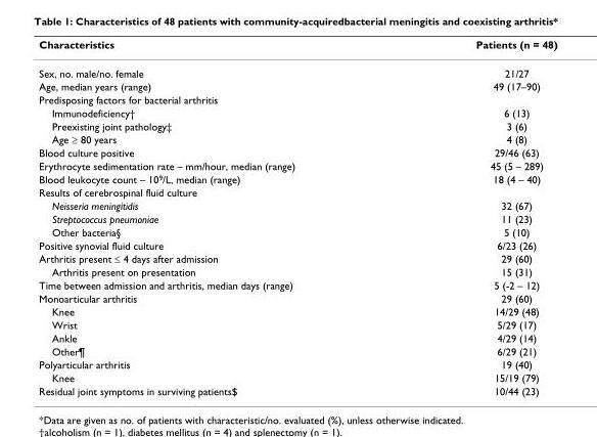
<table><thead><tr><td>Characteristics</td><td>Patients (n = 48)</td></tr></thead><tbody><tr><td>Sex, no. male/no. female</td><td>21/27</td></tr><tr><td>Age, median years (range)</td><td>49 (17–90)</td></tr><tr><td colspan="2">Predisposing factors for bacterial arthritis</td></tr><tr><td>Immunodeficiency†</td><td>6 (13)</td></tr><tr><td>Preexisting joint pathology‡</td><td>3 (6)</td></tr><tr><td>Age ≥ 80 years</td><td>4 (8)</td></tr><tr><td>Blood culture positive</td><td>29/46 (63)</td></tr><tr><td>Erythrocyte sedimentation rate – mm/hour, median (range)</td><td>45 (5 – 289)</td></tr><tr><td>Blood leukocyte count – 10<sup>9</sup>/L, median (range)</td><td>18 (4 – 40)</td></tr><tr><td colspan="2">Results of cerebrospinal fluid culture</td></tr><tr><td>Neisseria meningitidis</td><td>32 (67)</td></tr><tr><td>Streptococcus pneumoniae</td><td>11 (23)</td></tr><tr><td>Other bacteria§</td><td>5 (10)</td></tr><tr><td>Positive synovial fluid culture</td><td>6/23 (26)</td></tr><tr><td>Arthritis present ≤ 4 days after admission</td><td>29 (60)</td></tr><tr><td>Arthritis present on presentation</td><td>15 (31)</td></tr><tr><td>Time between admission and arthritis, median days (range)</td><td>5 (-2 – 12)</td></tr><tr><td>Monoarticular arthritis</td><td>29 (60)</td></tr><tr><td>Knee</td><td>14/29 (48)</td></tr><tr><td>Wrist</td><td>5/29 (17)</td></tr><tr><td>Ankle</td><td>4/29 (14)</td></tr><tr><td>Other¶</td><td>6/29 (21)</td></tr><tr><td>Polyarticular arthritis</td><td>19 (40)</td></tr><tr><td>Knee</td><td>15/19 (79)</td></tr><tr><td>Residual joint symptoms in surviving patients$</td><td>10/44 (23)</td></tr></tbody></table>